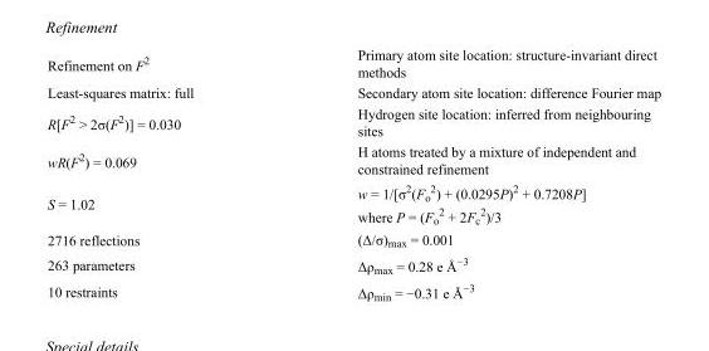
<table><tbody><tr><td>Refinement on F<sup>2</sup></td><td>Primary atom site location: structure-invariant direct methods</td></tr><tr><td>Least-squares matrix: full</td><td>Secondary atom site location: difference Fourier map</td></tr><tr><td>R[F<sup>2</sup> &gt; 2σ(F<sup>2</sup>)] = 0.030</td><td>Hydrogen site location: inferred from neighbouring sites</td></tr><tr><td>wR(F<sup>2</sup>) = 0.069</td><td>H atoms treated by a mixture of independent and constrained refinement</td></tr><tr><td>S = 1.02</td><td>w = 1/[σ<sup>2</sup>(F<sub>o</sub> <sup>2</sup>) + (0.0295P)<sup>2</sup> + 0.7208P] where P = (F<sub>o</sub> <sup>2</sup> + 2F<sub>c</sub> <sup>2</sup>)/3</td></tr><tr><td>2716 reflections</td><td>(Δ/σ)<sub>max</sub> = 0.001</td></tr><tr><td>263 parameters</td><td>Δρ<sub>max</sub> = 0.28 e Å<sup>−3</sup></td></tr><tr><td>10 restraints</td><td>Δρ<sub>min</sub> = −0.31 e Å<sup>−3</sup></td></tr></tbody></table>